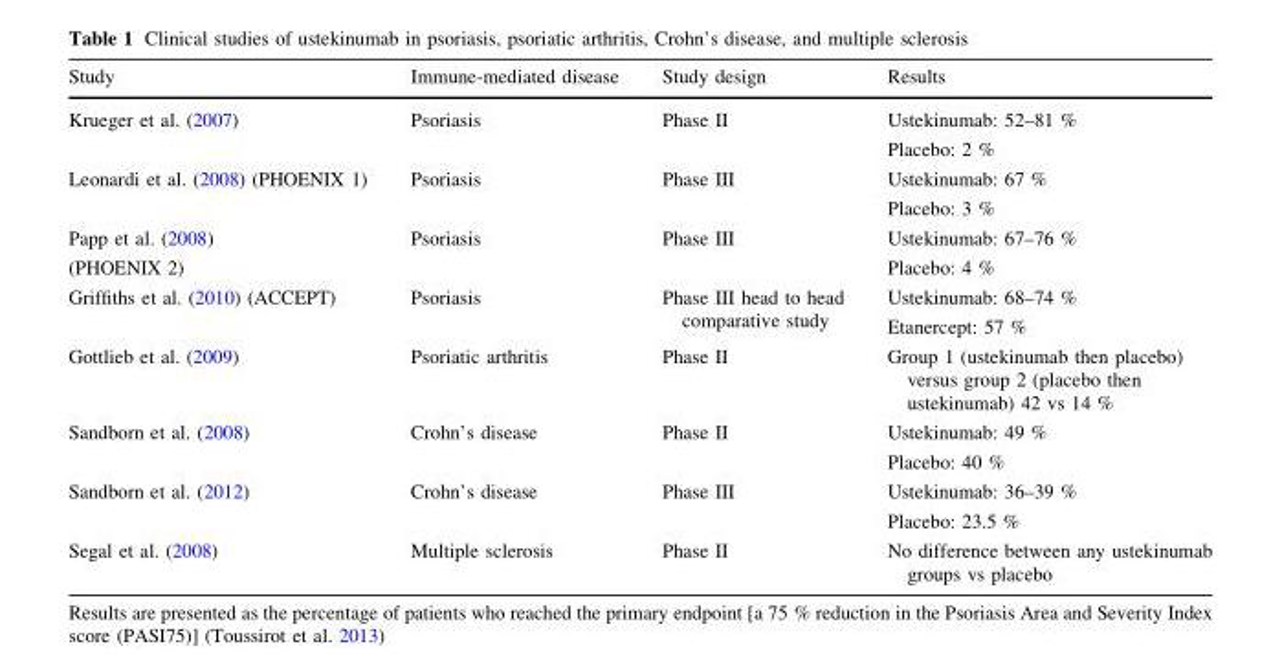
<table><thead><tr><td>Study</td><td>Immune-mediated disease</td><td>Study design</td><td>Results</td></tr></thead><tbody><tr><td>Krueger et al. (2007)</td><td>Psoriasis</td><td>Phase II</td><td>Ustekinumab: 52–81 % Placebo: 2 %</td></tr><tr><td>Leonardi et al. (2008) (PHOENIX 1)</td><td>Psoriasis</td><td>Phase III</td><td>Ustekinumab: 67 % Placebo: 3 %</td></tr><tr><td>Papp et al. (2008) (PHOENIX 2)</td><td>Psoriasis</td><td>Phase III</td><td>Ustekinumab: 67–76 % Placebo: 4 %</td></tr><tr><td>Griffiths et al. (2010) (ACCEPT)</td><td>Psoriasis</td><td>Phase III head to head comparative study</td><td>Ustekinumab: 68–74 % Etanercept: 57 %</td></tr><tr><td>Gottlieb et al. (2009)</td><td>Psoriatic arthritis</td><td>Phase II</td><td>Group 1 (ustekinumab then placebo) versus group 2 (placebo then ustekinumab) 42 vs 14 %</td></tr><tr><td>Sandborn et al. (2008)</td><td>Crohn’s disease</td><td>Phase II</td><td>Ustekinumab: 49 % Placebo: 40 %</td></tr><tr><td>Sandborn et al. (2012)</td><td>Crohn’s disease</td><td>Phase III</td><td>Ustekinumab: 36–39 % Placebo: 23.5 %</td></tr><tr><td>Segal et al. (2008)</td><td>Multiple sclerosis</td><td>Phase II</td><td>No difference between any ustekinumab groups vs placebo</td></tr></tbody></table>